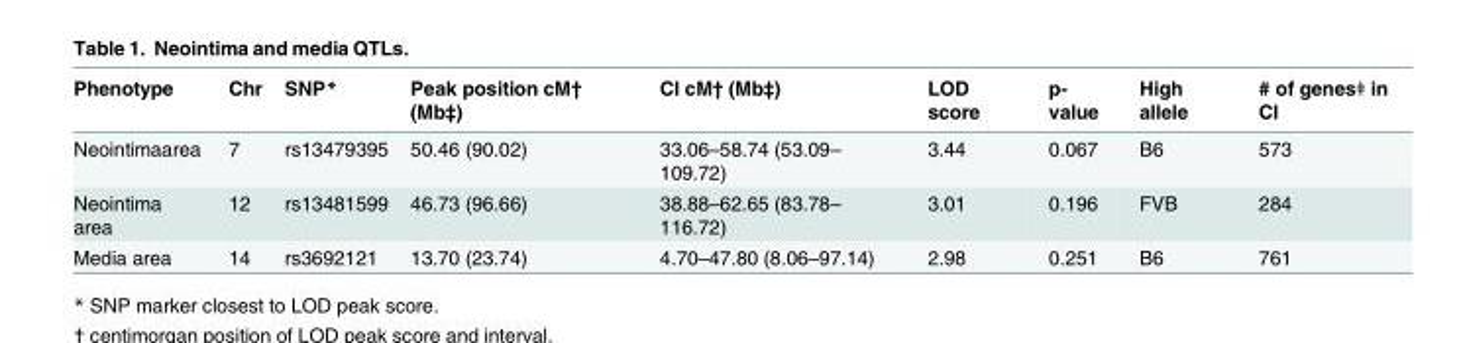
<table><thead><tr><td>Phenotype</td><td>Chr</td><td>SNP*</td><td>Peak position cM† (Mb‡)</td><td>CI cM† (Mb‡)</td><td>LOD score</td><td>p- value</td><td>High allele</td><td># of genesǂ in CI</td></tr></thead><tbody><tr><td>Neointimaarea</td><td>7</td><td>rs13479395</td><td>50.46 (90.02)</td><td>33.06–58.74 (53.09– 109.72)</td><td>3.44</td><td>0.067</td><td>B6</td><td>573</td></tr><tr><td>Neointima area</td><td>12</td><td>rs13481599</td><td>46.73 (96.66)</td><td>38.88–62.65 (83.78– 116.72)</td><td>3.01</td><td>0.196</td><td>FVB</td><td>284</td></tr><tr><td>Media area</td><td>14</td><td>rs3692121</td><td>13.70 (23.74)</td><td>4.70–47.80 (8.06–97.14)</td><td>2.98</td><td>0.251</td><td>B6</td><td>761</td></tr></tbody></table>